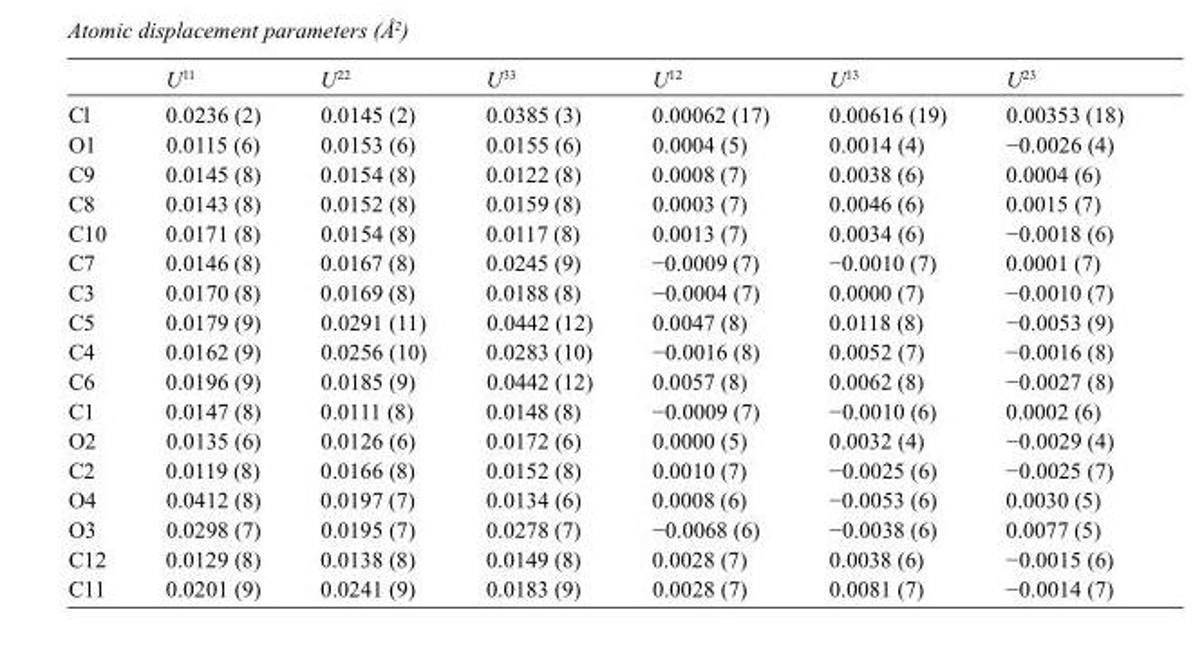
<table><thead><tr><td></td><td>U<sup>11</sup></td><td>U<sup>22</sup></td><td>U<sup>33</sup></td><td>U<sup>12</sup></td><td>U<sup>13</sup></td><td>U<sup>23</sup></td></tr></thead><tbody><tr><td>Cl</td><td>0.0236 (2)</td><td>0.0145 (2)</td><td>0.0385 (3)</td><td>0.00062 (17)</td><td>0.00616 (19)</td><td>0.00353 (18)</td></tr><tr><td>O1</td><td>0.0115 (6)</td><td>0.0153 (6)</td><td>0.0155 (6)</td><td>0.0004 (5)</td><td>0.0014 (4)</td><td>−0.0026 (4)</td></tr><tr><td>C9</td><td>0.0145 (8)</td><td>0.0154 (8)</td><td>0.0122 (8)</td><td>0.0008 (7)</td><td>0.0038 (6)</td><td>0.0004 (6)</td></tr><tr><td>C8</td><td>0.0143 (8)</td><td>0.0152 (8)</td><td>0.0159 (8)</td><td>0.0003 (7)</td><td>0.0046 (6)</td><td>0.0015 (7)</td></tr><tr><td>C10</td><td>0.0171 (8)</td><td>0.0154 (8)</td><td>0.0117 (8)</td><td>0.0013 (7)</td><td>0.0034 (6)</td><td>−0.0018 (6)</td></tr><tr><td>C7</td><td>0.0146 (8)</td><td>0.0167 (8)</td><td>0.0245 (9)</td><td>−0.0009 (7)</td><td>−0.0010 (7)</td><td>0.0001 (7)</td></tr><tr><td>C3</td><td>0.0170 (8)</td><td>0.0169 (8)</td><td>0.0188 (8)</td><td>−0.0004 (7)</td><td>0.0000 (7)</td><td>−0.0010 (7)</td></tr><tr><td>C5</td><td>0.0179 (9)</td><td>0.0291 (11)</td><td>0.0442 (12)</td><td>0.0047 (8)</td><td>0.0118 (8)</td><td>−0.0053 (9)</td></tr><tr><td>C4</td><td>0.0162 (9)</td><td>0.0256 (10)</td><td>0.0283 (10)</td><td>−0.0016 (8)</td><td>0.0052 (7)</td><td>−0.0016 (8)</td></tr><tr><td>C6</td><td>0.0196 (9)</td><td>0.0185 (9)</td><td>0.0442 (12)</td><td>0.0057 (8)</td><td>0.0062 (8)</td><td>−0.0027 (8)</td></tr><tr><td>C1</td><td>0.0147 (8)</td><td>0.0111 (8)</td><td>0.0148 (8)</td><td>−0.0009 (7)</td><td>−0.0010 (6)</td><td>0.0002 (6)</td></tr><tr><td>O2</td><td>0.0135 (6)</td><td>0.0126 (6)</td><td>0.0172 (6)</td><td>0.0000 (5)</td><td>0.0032 (4)</td><td>−0.0029 (4)</td></tr><tr><td>C2</td><td>0.0119 (8)</td><td>0.0166 (8)</td><td>0.0152 (8)</td><td>0.0010 (7)</td><td>−0.0025 (6)</td><td>−0.0025 (7)</td></tr><tr><td>O4</td><td>0.0412 (8)</td><td>0.0197 (7)</td><td>0.0134 (6)</td><td>0.0008 (6)</td><td>−0.0053 (6)</td><td>0.0030 (5)</td></tr><tr><td>O3</td><td>0.0298 (7)</td><td>0.0195 (7)</td><td>0.0278 (7)</td><td>−0.0068 (6)</td><td>−0.0038 (6)</td><td>0.0077 (5)</td></tr><tr><td>C12</td><td>0.0129 (8)</td><td>0.0138 (8)</td><td>0.0149 (8)</td><td>0.0028 (7)</td><td>0.0038 (6)</td><td>−0.0015 (6)</td></tr><tr><td>C11</td><td>0.0201 (9)</td><td>0.0241 (9)</td><td>0.0183 (9)</td><td>0.0028 (7)</td><td>0.0081 (7)</td><td>−0.0014 (7)</td></tr></tbody></table>